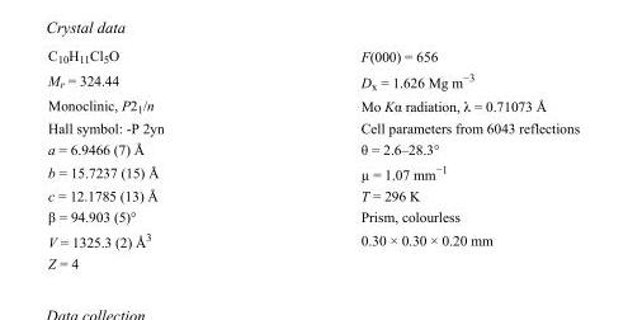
<table><tbody><tr><td>C<sub>10</sub>H<sub>11</sub>Cl<sub>5</sub>O</td><td>F(000) = 656</td></tr><tr><td>M<sub>r</sub> = 324.44</td><td>D<sub>x</sub> = 1.626 Mg m<sup>−3</sup></td></tr><tr><td>Monoclinic, P2<sub>1</sub>/n</td><td>Mo Kα radiation, λ = 0.71073 Å</td></tr><tr><td>Hall symbol: -P 2yn</td><td>Cell parameters from 6043 reflections</td></tr><tr><td>a = 6.9466 (7) Å</td><td>θ = 2.6–28.3°</td></tr><tr><td>b = 15.7237 (15) Å</td><td>µ = 1.07 mm<sup>−1</sup></td></tr><tr><td>c = 12.1785 (13) Å</td><td>T = 296 K</td></tr><tr><td>β = 94.903 (5)°</td><td>Prism, colourless</td></tr><tr><td>V = 1325.3 (2) Å<sup>3</sup></td><td>0.30 × 0.30 × 0.20 mm</td></tr><tr><td>Z = 4</td><td></td></tr></tbody></table>